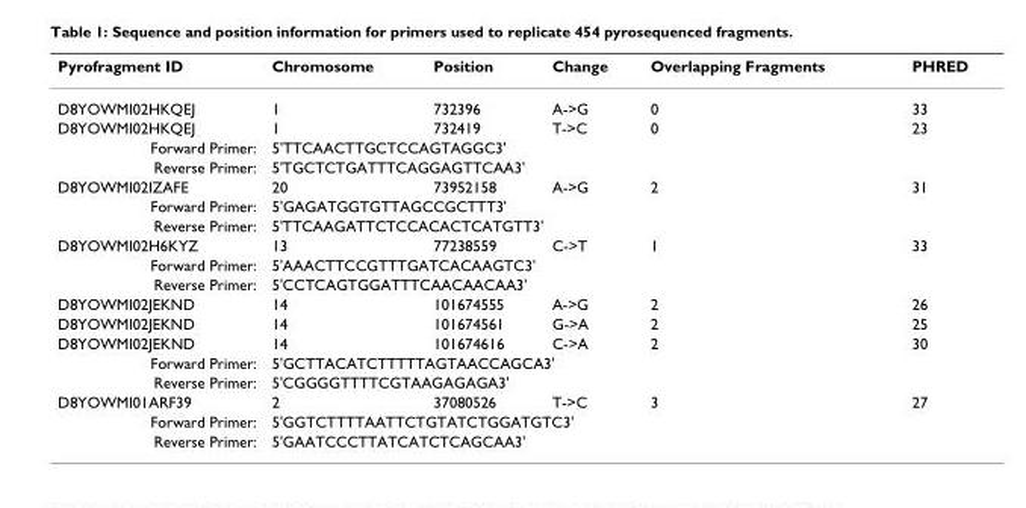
<table><thead><tr><td>Pyrofragment ID</td><td>Chromosome</td><td>Position</td><td>Change</td><td>Overlapping Fragments</td><td>PHRED</td></tr></thead><tbody><tr><td>D8YOWMI02HKQEJ</td><td>1</td><td>732396</td><td>A-&gt;G</td><td>0</td><td>33</td></tr><tr><td>D8YOWMI02HKQEJ</td><td>1</td><td>732419</td><td>T-&gt;C</td><td>0</td><td>23</td></tr><tr><td>Forward Primer:</td><td colspan="5">5&#x27;TTCAACTTGCTCCAGTAGGC3&#x27;</td></tr><tr><td>Reverse Primer:</td><td colspan="5">5&#x27;TGCTCTGATTTCAGGAGTTCAA3&#x27;</td></tr><tr><td>D8YOWMI02IZAFE</td><td>20</td><td>73952158</td><td>A-&gt;G</td><td>2</td><td>31</td></tr><tr><td>Forward Primer:</td><td colspan="5">5&#x27;GAGATGGTGTTAGCCGCTTT3&#x27;</td></tr><tr><td>Reverse Primer:</td><td colspan="5">5&#x27;TTCAAGATTCTCCACACTCATGTT3&#x27;</td></tr><tr><td>D8YOWMI02H6KYZ</td><td>13</td><td>77238559</td><td>C-&gt;T</td><td>1</td><td>33</td></tr><tr><td>Forward Primer:</td><td colspan="5">5&#x27;AAACTTCCGTTTGATCACAAGTC3&#x27;</td></tr><tr><td>Reverse Primer:</td><td colspan="5">5&#x27;CCTCAGTGGATTTCAACAACAA3&#x27;</td></tr><tr><td>D8YOWMI02JEKND</td><td>14</td><td>101674555</td><td>A-&gt;G</td><td>2</td><td>26</td></tr><tr><td>D8YOWMI02JEKND</td><td>14</td><td>101674561</td><td>G-&gt;A</td><td>2</td><td>25</td></tr><tr><td>D8YOWMI02JEKND</td><td>14</td><td>101674616</td><td>C-&gt;A</td><td>2</td><td>30</td></tr><tr><td>Forward Primer:</td><td colspan="5">5&#x27;GCTTACATCTTTTTAGTAACCAGCA3&#x27;</td></tr><tr><td>Reverse Primer:</td><td colspan="5">5&#x27;CGGGGTTTTCGTAAGAGAGA3&#x27;</td></tr><tr><td>D8YOWMI01ARF39</td><td>2</td><td>37080526</td><td>T-&gt;C</td><td>3</td><td>27</td></tr><tr><td>Forward Primer:</td><td colspan="5">5&#x27;GGTCTTTTAATTCTGTATCTGGATGTC3&#x27;</td></tr><tr><td>Reverse Primer:</td><td colspan="5">5&#x27;GAATCCCTTATCATCTCAGCAA3&#x27;</td></tr></tbody></table>